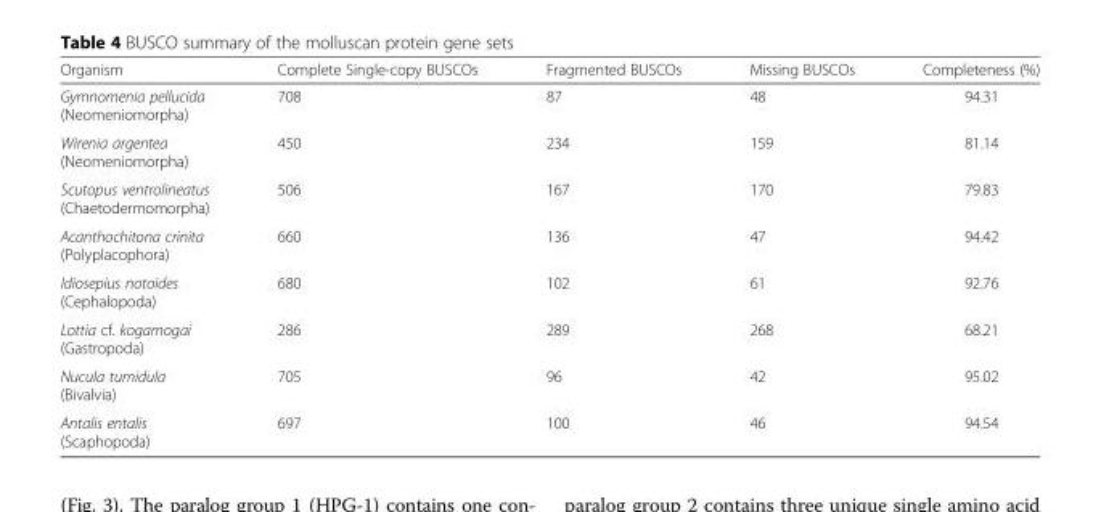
<table><thead><tr><td>Organism</td><td>Complete Single-copy BUSCOs</td><td>Fragmented BUSCOs</td><td>Missing BUSCOs</td><td>Completeness (%)</td></tr></thead><tbody><tr><td>Gymnomenia pellucida (Neomeniomorpha)</td><td>708</td><td>87</td><td>48</td><td>94.31</td></tr><tr><td>Wirenia argentea (Neomeniomorpha)</td><td>450</td><td>234</td><td>159</td><td>81.14</td></tr><tr><td>Scutopus ventrolineatus (Chaetodermomorpha)</td><td>506</td><td>167</td><td>170</td><td>79.83</td></tr><tr><td>Acanthochitona crinita (Polyplacophora)</td><td>660</td><td>136</td><td>47</td><td>94.42</td></tr><tr><td>Idiosepius notoides (Cephalopoda)</td><td>680</td><td>102</td><td>61</td><td>92.76</td></tr><tr><td>Lottia cf. kogamogai (Gastropoda)</td><td>286</td><td>289</td><td>268</td><td>68.21</td></tr><tr><td>Nucula tumidula (Bivalvia)</td><td>705</td><td>96</td><td>42</td><td>95.02</td></tr><tr><td>Antalis entalis (Scaphopoda)</td><td>697</td><td>100</td><td>46</td><td>94.54</td></tr></tbody></table>